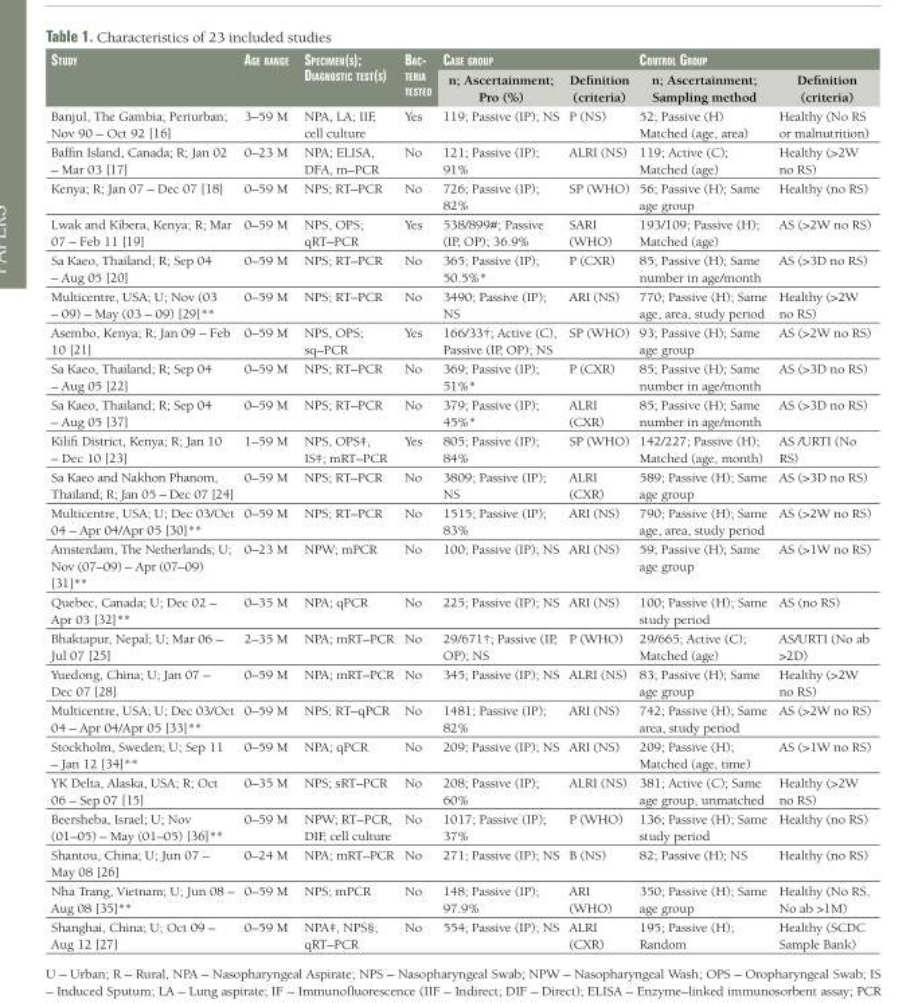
<table><thead><tr><td rowspan="2">Study</td><td rowspan="2">Age rAnge</td><td rowspan="2">Specimen(S); diAgnoStic teSt(S)</td><td rowspan="2">BAc- teriA teSted</td><td colspan="2">cASe group</td><td colspan="2">control group</td></tr><tr><td>n; Ascertainment; Pro (%)</td><td>Definition (criteria)</td><td>n; Ascertainment; Sampling method</td><td>Definition (criteria)</td></tr></thead><tbody><tr><td>Banjul, The Gambia; Periurban; Nov 90 – Oct 92 [16]</td><td>3–59 M</td><td>NPA, LA; IIF, cell culture</td><td>Yes</td><td>119; Passive (IP); NS</td><td>P (NS)</td><td>52; Passive (H) Matched (age, area)</td><td>Healthy (No RS or malnutrition)</td></tr><tr><td>Baffin Island, Canada; R; Jan 02 – Mar 03 [17]</td><td>0–23 M</td><td>NPA; ELISA, DFA, m–PCR</td><td>No</td><td>121; Passive (IP); 91%</td><td>ALRI (NS)</td><td>119; Active (C); Matched (age)</td><td>Healthy (&gt;2W no RS)</td></tr><tr><td>Kenya; R; Jan 07 – Dec 07 [18]</td><td>0–59 M</td><td>NPS; RT–PCR</td><td>No</td><td>726; Passive (IP); 82%</td><td>SP (WHO)</td><td>56; Passive (H); Same age group</td><td>Healthy (no RS)</td></tr><tr><td>Lwak and Kibera, Kenya; R; Mar 07 – Feb 11 [19]</td><td>0–59 M</td><td>NPS, OPS; qRT–PCR</td><td>Yes</td><td>538/899#; Passive (IP, OP); 36.9%</td><td>SARI (WHO)</td><td>193/109; Passive (H); Matched (age)</td><td>AS (&gt;2W no RS)</td></tr><tr><td>Sa Kaeo, Thailand; R; Sep 04 – Aug 05 [20]</td><td>0–59 M</td><td>NPS; RT–PCR</td><td>No</td><td>365; Passive (IP); 50.5%*</td><td>P (CXR)</td><td>85; Passive (H); Same number in age/month</td><td>AS (&gt;3D no RS)</td></tr><tr><td>Multicentre, USA; U; Nov (03 – 09) – May (03 – 09) [29]**</td><td>0–59 M</td><td>NPS; RT–PCR</td><td>No</td><td>3490; Passive (IP); NS</td><td>ARI (NS)</td><td>770; Passive (H); Same age, area, study period</td><td>Healthy (&gt;2W no RS)</td></tr><tr><td>Asembo, Kenya; R; Jan 09 – Feb 10 [21]</td><td>0–59 M</td><td>NPS, OPS; sq–PCR</td><td>Yes</td><td>166/33†; Active (C), Passive (IP, OP); NS</td><td>SP (WHO)</td><td>93; Passive (H); Same age group</td><td>AS (&gt;2W no RS)</td></tr><tr><td>Sa Kaeo, Thailand; R; Sep 04 – Aug 05 [22]</td><td>0–59 M</td><td>NPS; RT–PCR</td><td>No</td><td>369; Passive (IP); 51%*</td><td>P (CXR)</td><td>85; Passive (H); Same number in age/month</td><td>AS (&gt;3D no RS)</td></tr><tr><td>Sa Kaeo, Thailand; R; Sep 04 – Aug 05 [37]</td><td>0–59 M</td><td>NPS; RT–PCR</td><td>No</td><td>379; Passive (IP); 45%*</td><td>ALRI (CXR)</td><td>85; Passive (H); Same number in age/month</td><td>AS (&gt;3D no RS)</td></tr><tr><td>Kilifi District, Kenya; R; Jan 10 – Dec 10 [23]</td><td>1–59 M</td><td>NPS, OPS‡, IS‡; mRT–PCR</td><td>Yes</td><td>805; Passive (IP); 84%</td><td>SP (WHO)</td><td>142/227; Passive (H); Matched (age, month)</td><td>AS /URTI (No RS)</td></tr><tr><td>Sa Kaeo and Nakhon Phanom, Thailand; R; Jan 05 – Dec 07 [24]</td><td>0–59 M</td><td>NPS; RT–PCR</td><td>No</td><td>3809; Passive (IP); NS</td><td>ALRI (CXR)</td><td>589; Passive (H); Same age group</td><td>AS (&gt;3D no RS)</td></tr><tr><td>Multicentre, USA; U; Dec 03/Oct 04 – Apr 04/Apr 05 [30]**</td><td>0–59 M</td><td>NPS; RT–PCR</td><td>No</td><td>1515; Passive (IP); 83%</td><td>ARI (NS)</td><td>790; Passive (H); Same age, area, study period</td><td>AS (&gt;2W no RS)</td></tr><tr><td>Amsterdam, The Netherlands; U; Nov (07–09) – Apr (07–09) [31]**</td><td>0–23 M</td><td>NPW; mPCR</td><td>No</td><td>100; Passive (IP); NS</td><td>ARI (NS)</td><td>59; Passive (H); Same age group</td><td>AS (&gt;1W no RS)</td></tr><tr><td>Quebec, Canada; U; Dec 02 – Apr 03 [32]**</td><td>0–35 M</td><td>NPA; qPCR</td><td>No</td><td>225; Passive (IP); NS</td><td>ARI (NS)</td><td>100; Passive (H); Same study period</td><td>AS (no RS)</td></tr><tr><td>Bhaktapur, Nepal; U; Mar 06 – Jul 07 [25]</td><td>2–35 M</td><td>NPA; mRT–PCR</td><td>No</td><td>29/671†; Passive (IP, OP); NS</td><td>P (WHO)</td><td>29/665; Active (C); Matched (age)</td><td>AS/URTI (No ab &gt;2D)</td></tr><tr><td>Yuedong, China; U; Jan 07 – Dec 07 [28]</td><td>0–59 M</td><td>NPA; mRT–PCR</td><td>No</td><td>345; Passive (IP); NS</td><td>ALRI (NS)</td><td>83; Passive (H); Same age group</td><td>Healthy (&gt;2W no RS)</td></tr><tr><td>Multicentre, USA; U; Dec 03/Oct 04 – Apr 04/Apr 05 [33]**</td><td>0–59 M</td><td>NPS; RT–qPCR</td><td>No</td><td>1481; Passive (IP); 82%</td><td>ARI (NS)</td><td>742; Passive (H); Same area, study period</td><td>AS (&gt;2W no RS)</td></tr><tr><td>Stockholm, Sweden; U; Sep 11 – Jan 12 [34]**</td><td>0–59 M</td><td>NPA; qPCR</td><td>No</td><td>209; Passive (IP); NS</td><td>ARI (NS)</td><td>209; Passive (H); Matched (age, time)</td><td>AS (&gt;1W no RS)</td></tr><tr><td>YK Delta, Alaska, USA; R; Oct 06 – Sep 07 [15]</td><td>0–35 M</td><td>NPS; sRT–PCR</td><td>No</td><td>208; Passive (IP); 60%</td><td>ALRI (NS)</td><td>381; Active (C); Same age group, unmatched</td><td>Healthy (&gt;2W no RS)</td></tr><tr><td>Beersheba, Israel; U; Nov (01–05) – May (01–05) [36]**</td><td>0–59 M</td><td>NPW; RT–PCR, DIF, cell culture</td><td>No</td><td>1017; Passive (IP); 37%</td><td>P (WHO)</td><td>136; Passive (H); Same study period</td><td>Healthy (no RS)</td></tr><tr><td>Shantou, China; U; Jun 07 – May 08 [26]</td><td>0–24 M</td><td>NPA; mRT–PCR</td><td>No</td><td>271; Passive (IP); NS</td><td>B (NS)</td><td>82; Passive (H); NS</td><td>Healthy (no RS)</td></tr><tr><td>Nha Trang, Vietnam; U; Jun 08 – Aug 08 [35]**</td><td>0–59 M</td><td>NPS; mPCR</td><td>No</td><td>148; Passive (IP); 97.9%</td><td>ARI (WHO)</td><td>350; Passive (H); Same age group</td><td>Healthy (No RS, No ab &gt;1M)</td></tr><tr><td>Shanghai, China; U; Oct 09 – Aug 12 [27]</td><td>0–59 M</td><td>NPA‡, NPS§; qRT–PCR</td><td>No</td><td>554; Passive (IP); NS</td><td>ALRI (CXR)</td><td>195; Passive (H); Random</td><td>Healthy (SCDC Sample Bank)</td></tr></tbody></table>